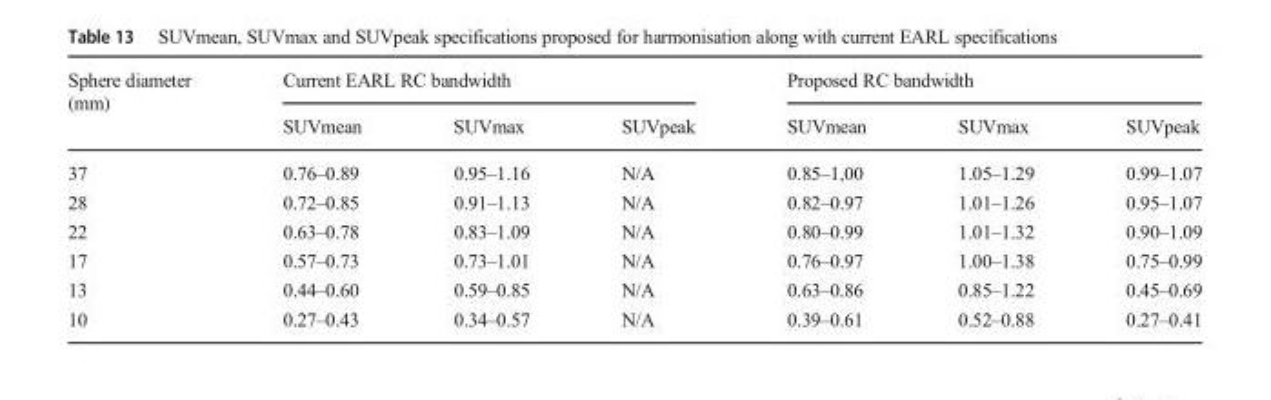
<table><thead><tr><td rowspan="2">Sphere diameter (mm)</td><td colspan="3">Current EARL RC bandwidth</td><td colspan="3">Proposed RC bandwidth</td></tr><tr><td>SUVmean</td><td>SUVmax</td><td>SUVpeak</td><td>SUVmean</td><td>SUVmax</td><td>SUVpeak</td></tr></thead><tbody><tr><td>37</td><td>0.76–0.89</td><td>0.95–1.16</td><td>N/A</td><td>0.85–1,00</td><td>1.05–1.29</td><td>0.99–1.07</td></tr><tr><td>28</td><td>0.72–0.85</td><td>0.91–1.13</td><td>N/A</td><td>0.82–0.97</td><td>1.01–1.26</td><td>0.95–1.07</td></tr><tr><td>22</td><td>0.63–0.78</td><td>0.83–1.09</td><td>N/A</td><td>0.80–0.99</td><td>1.01–1.32</td><td>0.90–1.09</td></tr><tr><td>17</td><td>0.57–0.73</td><td>0.73–1.01</td><td>N/A</td><td>0.76–0.97</td><td>1.00–1.38</td><td>0.75–0.99</td></tr><tr><td>13</td><td>0.44–0.60</td><td>0.59–0.85</td><td>N/A</td><td>0.63–0.86</td><td>0.85–1.22</td><td>0.45–0.69</td></tr><tr><td>10</td><td>0.27–0.43</td><td>0.34–0.57</td><td>N/A</td><td>0.39–0.61</td><td>0.52–0.88</td><td>0.27–0.41</td></tr></tbody></table>